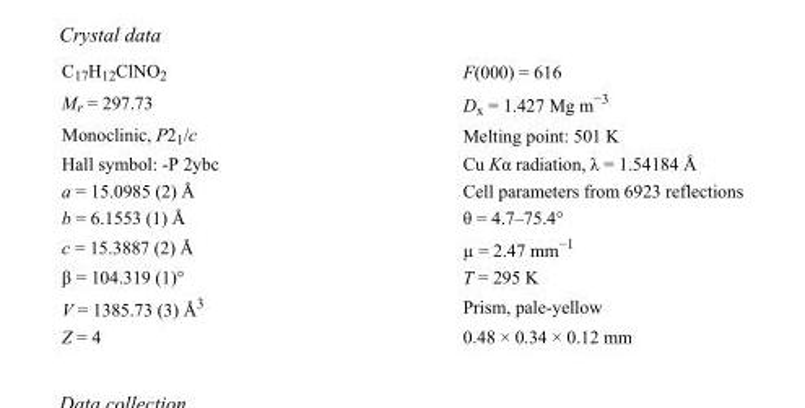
<table><tbody><tr><td>C<sub>17</sub>H<sub>12</sub>ClNO<sub>2</sub></td><td>F(000) = 616</td></tr><tr><td>M<sub>r</sub> = 297.73</td><td>D<sub>x</sub> = 1.427 Mg m<sup>−3</sup></td></tr><tr><td>Monoclinic, P2<sub>1</sub>/c</td><td>Melting point: 501 K</td></tr><tr><td>Hall symbol: -P 2ybc</td><td>Cu Kα radiation, λ = 1.54184 Å</td></tr><tr><td>a = 15.0985 (2) Å</td><td>Cell parameters from 6923 reflections</td></tr><tr><td>b = 6.1553 (1) Å</td><td>θ = 4.7–75.4°</td></tr><tr><td>c = 15.3887 (2) Å</td><td>µ = 2.47 mm<sup>−1</sup></td></tr><tr><td>β = 104.319 (1)°</td><td>T = 295 K</td></tr><tr><td>V = 1385.73 (3) Å<sup>3</sup></td><td>Prism, pale-yellow</td></tr><tr><td>Z = 4</td><td>0.48 × 0.34 × 0.12 mm</td></tr></tbody></table>